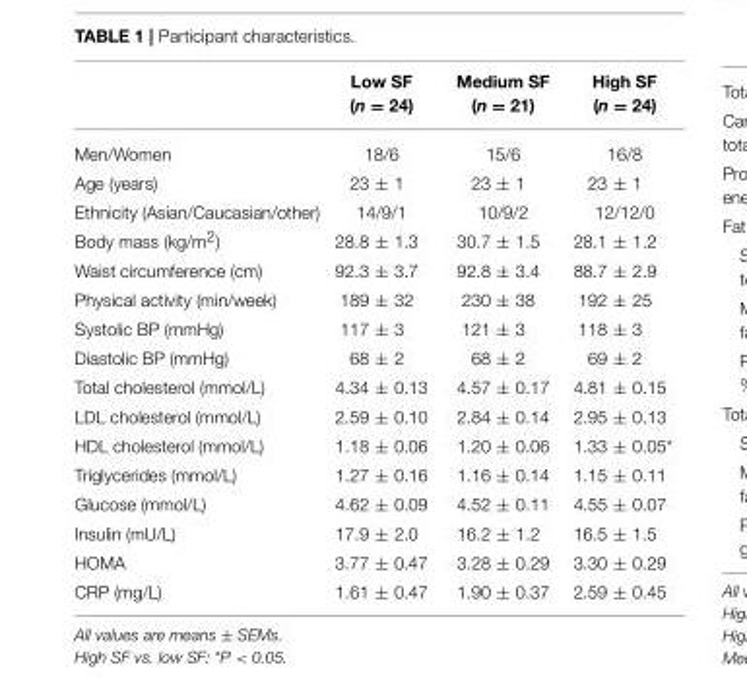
<table><thead><tr><td></td><td>Low SF (n = 24)</td><td>Medium SF (n = 21)</td><td>High SF (n = 24)</td></tr></thead><tbody><tr><td>Men/Women</td><td>18/6</td><td>15/6</td><td>16/8</td></tr><tr><td>Age (years)</td><td>23 ± 1</td><td>23 ± 1</td><td>23 ± 1</td></tr><tr><td>Ethnicity (Asian/Caucasian/other)</td><td>14/9/1</td><td>10/9/2</td><td>12/12/0</td></tr><tr><td>Body mass (kg/m<sup>2</sup>)</td><td>28.8 ± 1.3</td><td>30.7 ± 1.5</td><td>28.1 ± 1.2</td></tr><tr><td>Waist circumference (cm)</td><td>92.3 ± 3.7</td><td>92.8 ± 3.4</td><td>88.7 ± 2.9</td></tr><tr><td>Physical activity (min/week)</td><td>189 ± 32</td><td>230 ± 38</td><td>192 ± 25</td></tr><tr><td>Systolic BP (mmHg)</td><td>117 ± 3</td><td>121 ± 3</td><td>118 ± 3</td></tr><tr><td>Diastolic BP (mmHg)</td><td>68 ± 2</td><td>68 ± 2</td><td>69 ± 2</td></tr><tr><td>Total cholesterol (mmol/L)</td><td>4.34 ± 0.13</td><td>4.57 ± 0.17</td><td>4.81 ± 0.15</td></tr><tr><td>LDL cholesterol (mmol/L)</td><td>2.59 ± 0.10</td><td>2.84 ± 0.14</td><td>2.95 ± 0.13</td></tr><tr><td>HDL cholesterol (mmol/L)</td><td>1.18 ± 0.06</td><td>1.20 ± 0.06</td><td>1.33 ± 0.05*</td></tr><tr><td>Triglycerides (mmol/L)</td><td>1.27 ± 0.16</td><td>1.16 ± 0.14</td><td>1.15 ± 0.11</td></tr><tr><td>Glucose (mmol/L)</td><td>4.62 ± 0.09</td><td>4.52 ± 0.11</td><td>4.55 ± 0.07</td></tr><tr><td>Insulin (mU/L)</td><td>17.9 ± 2.0</td><td>16.2 ± 1.2</td><td>16.5 ± 1.5</td></tr><tr><td>HOMA</td><td>3.77 ± 0.47</td><td>3.28 ± 0.29</td><td>3.30 ± 0.29</td></tr><tr><td>CRP (mg/L)</td><td>1.61 ± 0.47</td><td>1.90 ± 0.37</td><td>2.59 ± 0.45</td></tr></tbody></table>